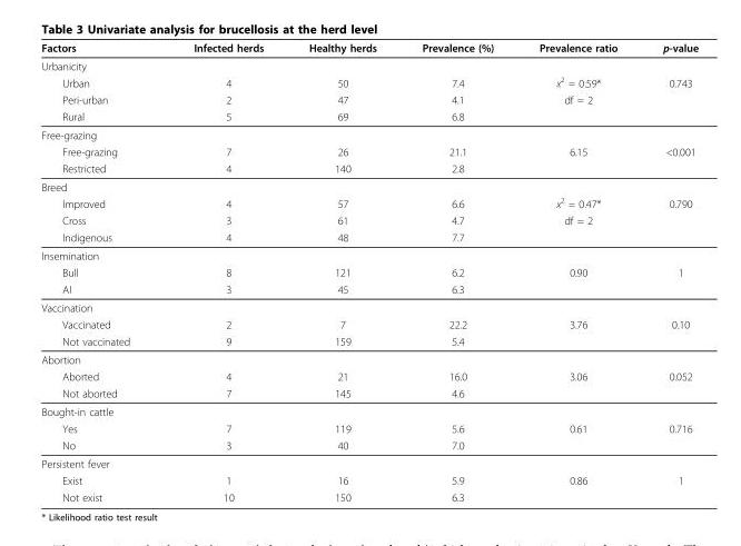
<table><thead><tr><td>Factors</td><td>Infected herds</td><td>Healthy herds</td><td>Prevalence (%)</td><td>Prevalence ratio</td><td>p-value</td></tr></thead><tbody><tr><td colspan="6">Urbanicity</td></tr><tr><td>Urban</td><td>4</td><td>50</td><td>7.4</td><td>x<sup>2</sup> = 0.59*</td><td>0.743</td></tr><tr><td>Peri-urban</td><td>2</td><td>47</td><td>4.1</td><td>df = 2</td><td></td></tr><tr><td>Rural</td><td>5</td><td>69</td><td>6.8</td><td></td><td></td></tr><tr><td colspan="6">Free-grazing</td></tr><tr><td>Free-grazing</td><td>7</td><td>26</td><td>21.1</td><td>6.15</td><td>&lt;0.001</td></tr><tr><td>Restricted</td><td>4</td><td>140</td><td>2.8</td><td></td><td></td></tr><tr><td colspan="6">Breed</td></tr><tr><td>Improved</td><td>4</td><td>57</td><td>6.6</td><td>x<sup>2</sup> = 0.47*</td><td>0.790</td></tr><tr><td>Cross</td><td>3</td><td>61</td><td>4.7</td><td>df = 2</td><td></td></tr><tr><td>Indigenous</td><td>4</td><td>48</td><td>7.7</td><td></td><td></td></tr><tr><td colspan="6">Insemination</td></tr><tr><td>Bull</td><td>8</td><td>121</td><td>6.2</td><td>0.90</td><td>1</td></tr><tr><td>AI</td><td>3</td><td>45</td><td>6.3</td><td></td><td></td></tr><tr><td colspan="6">Vaccination</td></tr><tr><td>Vaccinated</td><td>2</td><td>7</td><td>22.2</td><td>3.76</td><td>0.10</td></tr><tr><td>Not vaccinated</td><td>9</td><td>159</td><td>5.4</td><td></td><td></td></tr><tr><td colspan="6">Abortion</td></tr><tr><td>Aborted</td><td>4</td><td>21</td><td>16.0</td><td>3.06</td><td>0.052</td></tr><tr><td>Not aborted</td><td>7</td><td>145</td><td>4.6</td><td></td><td></td></tr><tr><td colspan="6">Bought-in cattle</td></tr><tr><td>Yes</td><td>7</td><td>119</td><td>5.6</td><td>0.61</td><td>0.716</td></tr><tr><td>No</td><td>3</td><td>40</td><td>7.0</td><td></td><td></td></tr><tr><td colspan="6">Persistent fever</td></tr><tr><td>Exist</td><td>1</td><td>16</td><td>5.9</td><td>0.86</td><td>1</td></tr><tr><td>Not exist</td><td>10</td><td>150</td><td>6.3</td><td></td><td></td></tr></tbody></table>